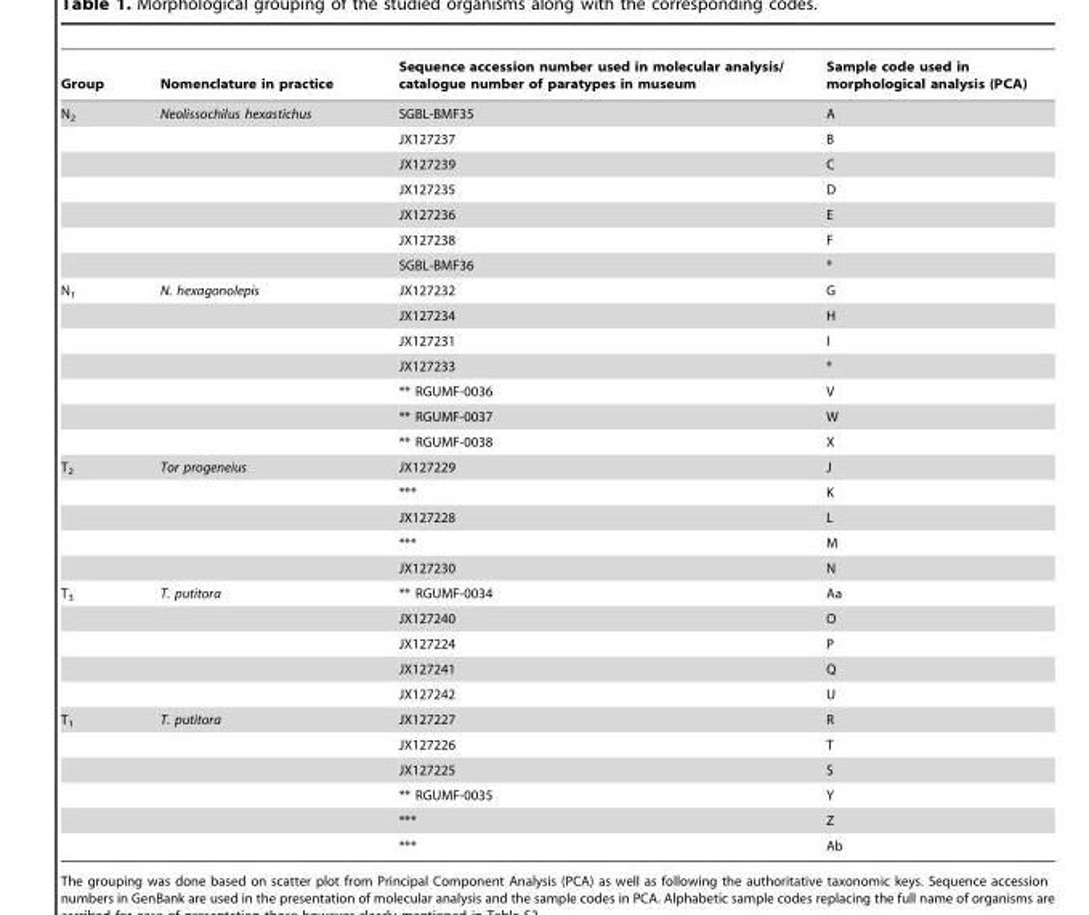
<table><thead><tr><td>Group</td><td>Nomenclature in practice</td><td>Sequence accession number used in molecular analysis/ catalogue number of paratypes in museum</td><td>Sample code used in morphological analysis (PCA)</td></tr></thead><tbody><tr><td rowspan="7">N<sub>2</sub></td><td>Neolissochilus hexastichus</td><td>SGBL-BMF35</td><td>A</td></tr><tr><td></td><td>JX127237</td><td>B</td></tr><tr><td></td><td>JX127239</td><td>C</td></tr><tr><td></td><td>JX127235</td><td>D</td></tr><tr><td></td><td>JX127236</td><td>E</td></tr><tr><td></td><td>JX127238</td><td>F</td></tr><tr><td></td><td>SGBL-BMF36</td><td>*</td></tr><tr><td rowspan="7">N<sub>1</sub></td><td>N. hexagonolepis</td><td>JX127232</td><td>G</td></tr><tr><td></td><td>JX127234</td><td>H</td></tr><tr><td></td><td>JX127231</td><td>I</td></tr><tr><td></td><td>JX127233</td><td>*</td></tr><tr><td></td><td>** RGUMF-0036</td><td>V</td></tr><tr><td></td><td>** RGUMF-0037</td><td>W</td></tr><tr><td></td><td>** RGUMF-0038</td><td>X</td></tr><tr><td rowspan="5">T<sub>2</sub></td><td>Tor progeneius</td><td>JX127229</td><td>J</td></tr><tr><td></td><td>***</td><td>K</td></tr><tr><td></td><td>JX127228</td><td>L</td></tr><tr><td></td><td>***</td><td>M</td></tr><tr><td></td><td>JX127230</td><td>N</td></tr><tr><td rowspan="5">T<sub>3</sub></td><td>T. putitora</td><td>** RGUMF-0034</td><td>Aa</td></tr><tr><td></td><td>JX127240</td><td>O</td></tr><tr><td></td><td>JX127224</td><td>P</td></tr><tr><td></td><td>JX127241</td><td>Q</td></tr><tr><td></td><td>JX127242</td><td>U</td></tr><tr><td rowspan="6">T<sub>1</sub></td><td>T. putitora</td><td>JX127227</td><td>R</td></tr><tr><td></td><td>JX127226</td><td>T</td></tr><tr><td></td><td>JX127225</td><td>S</td></tr><tr><td></td><td>** RGUMF-0035</td><td>Y</td></tr><tr><td></td><td>***</td><td>Z</td></tr><tr><td></td><td>***</td><td>Ab</td></tr></tbody></table>